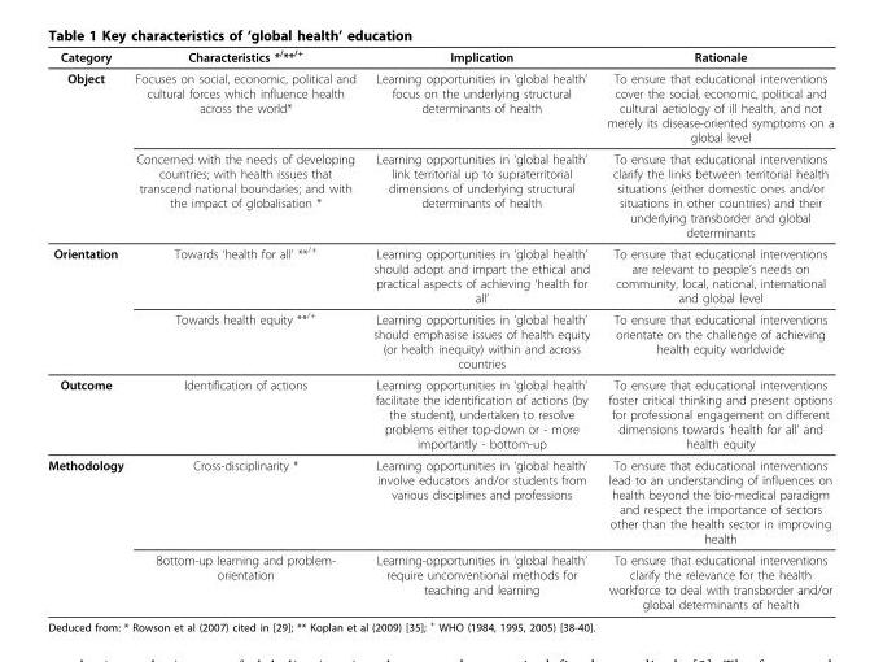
<table><thead><tr><td>Category</td><td>Characteristics *<sup>/</sup>**<sup>/+</sup></td><td>Implication</td><td>Rationale</td></tr></thead><tbody><tr><td rowspan="2">Object</td><td>Focuses on social, economic, political and cultural forces which influence health across the world*</td><td>Learning opportunities in ‘global health’ focus on the underlying structural determinants of health</td><td>To ensure that educational interventions cover the social, economic, political and cultural aetiology of ill health, and not merely its disease-oriented symptoms on a global level</td></tr><tr><td>Concerned with the needs of developing countries; with health issues that transcend national boundaries; and with the impact of globalisation *</td><td>Learning opportunities in ‘global health’ link territorial up to supraterritorial dimensions of underlying structural determinants of health</td><td>To ensure that educational interventions clarify the links between territorial health situations (either domestic ones and/or situations in other countries) and their underlying transborder and global determinants</td></tr><tr><td rowspan="2">Orientation</td><td>Towards ‘health for all’ **<sup>/+</sup></td><td>Learning opportunities in ‘global health’ should adopt and impart the ethical and practical aspects of achieving ‘health for all’</td><td>To ensure that educational interventions are relevant to people’s needs on community, local, national, international and global level</td></tr><tr><td>Towards health equity **<sup>/+</sup></td><td>Learning opportunities in ‘global health’ should emphasise issues of health equity (or health inequity) within and across countries</td><td>To ensure that educational interventions orientate on the challenge of achieving health equity worldwide</td></tr><tr><td>Outcome</td><td>Identification of actions</td><td>Learning opportunities in ‘global health’ facilitate the identification of actions (by the student), undertaken to resolve problems either top-down or - more importantly - bottom-up</td><td>To ensure that educational interventions foster critical thinking and present options for professional engagement on different dimensions towards ‘health for all’ and health equity</td></tr><tr><td rowspan="2">Methodology</td><td>Cross-disciplinarity *</td><td>Learning opportunities in ‘global health’ involve educators and/or students from various disciplines and professions</td><td>To ensure that educational interventions lead to an understanding of influences on health beyond the bio-medical paradigm and respect the importance of sectors other than the health sector in improving health</td></tr><tr><td>Bottom-up learning and problem- orientation</td><td>Learning-opportunities in ‘global health’ require unconventional methods for teaching and learning</td><td>To ensure that educational interventions clarify the relevance for the health workforce to deal with transborder and/or global determinants of health</td></tr></tbody></table>